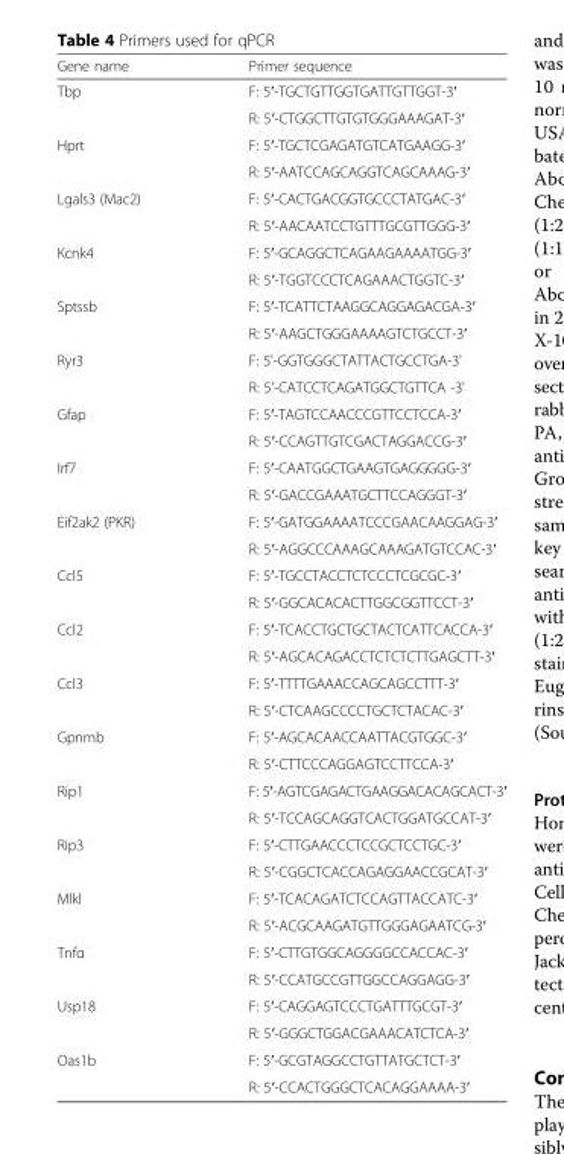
<table><thead><tr><td>Gene name</td><td>Primer sequence</td></tr></thead><tbody><tr><td rowspan="2">Tbp</td><td>F: 5′-TGCTGTTGGTGATTGTTGGT-3′</td></tr><tr><td>R: 5′-CTGGCTTGTGTGGGAAAGAT-3′</td></tr><tr><td rowspan="2">Hprt</td><td>F: 5′-TGCTCGAGATGTCATGAAGG-3′</td></tr><tr><td>R: 5′-AATCCAGCAGGTCAGCAAAG-3′</td></tr><tr><td rowspan="2">Lgals3 (Mac2)</td><td>F: 5′-CACTGACGGTGCCCTATGAC-3′</td></tr><tr><td>R: 5′-AACAATCCTGTTTGCGTTGGG-3′</td></tr><tr><td rowspan="2">Kcnk4</td><td>F: 5′-GCAGGCTCAGAAGAAAATGG-3′</td></tr><tr><td>R: 5′-TGGTCCCTCAGAAACTGGTC-3′</td></tr><tr><td rowspan="2">Sptssb</td><td>F: 5′-TCATTCTAAGGCAGGAGACGA-3′</td></tr><tr><td>R: 5′-AAGCTGGGAAAAGTCTGCCT-3′</td></tr><tr><td rowspan="2">Ryr3</td><td>F: 5&#x27;-GGTGGGCTATTACTGCCTGA-3&#x27;</td></tr><tr><td>R: 5&#x27;-CATCCTCAGATGGCTGTTCA -3&#x27;</td></tr><tr><td rowspan="2">Gfap</td><td>F: 5′-TAGTCCAACCCGTTCCTCCA-3′</td></tr><tr><td>R: 5′-CCAGTTGTCGACTAGGACCG-3′</td></tr><tr><td rowspan="2">Irf7</td><td>F: 5′-CAATGGCTGAAGTGAGGGGG-3′</td></tr><tr><td>R: 5′-GACCGAAATGCTTCCAGGGT-3′</td></tr><tr><td rowspan="2">Eif2ak2 (PKR)</td><td>F: 5′-GATGGAAAATCCCGAACAAGGAG-3′</td></tr><tr><td>R: 5′-AGGCCCAAAGCAAAGATGTCCAC-3′</td></tr><tr><td rowspan="2">Ccl5</td><td>F: 5′-TGCCTACCTCTCCCTCGCGC-3′</td></tr><tr><td>R: 5′-GGCACACACTTGGCGGTTCCT-3′</td></tr><tr><td rowspan="2">Ccl2</td><td>F: 5′-TCACCTGCTGCTACTCATTCACCA-3′</td></tr><tr><td>R: 5′-AGCACAGACCTCTCTCTTGAGCTT-3′</td></tr><tr><td rowspan="2">Ccl3</td><td>F: 5′-TTTTGAAACCAGCAGCCTTT-3′</td></tr><tr><td>R: 5′-CTCAAGCCCCTGCTCTACAC-3′</td></tr><tr><td rowspan="2">Gpnmb</td><td>F: 5′-AGCACAACCAATTACGTGGC-3′</td></tr><tr><td>R: 5′-CTTCCCAGGAGTCCTTCCA-3′</td></tr><tr><td rowspan="2">Rip1</td><td>F: 5′-AGTCGAGACTGAAGGACACAGCACT-3′</td></tr><tr><td>R: 5′-TCCAGCAGGTCACTGGATGCCAT-3′</td></tr><tr><td rowspan="2">Rip3</td><td>F: 5′-CTTGAACCCTCCGCTCCTGC-3′</td></tr><tr><td>R: 5′-CGGCTCACCAGAGGAACCGCAT-3′</td></tr><tr><td rowspan="2">Mlkl</td><td>F: 5′-TCACAGATCTCCAGTTACCATC-3′</td></tr><tr><td>R: 5′-ACGCAAGATGTTGGGAGAATCG-3′</td></tr><tr><td rowspan="2">Tnfα</td><td>F: 5′-CTTGTGGCAGGGGCCACCAC-3′</td></tr><tr><td>R: 5′-CCATGCCGTTGGCCAGGAGG-3′</td></tr><tr><td rowspan="2">Usp18</td><td>F: 5′-CAGGAGTCCCTGATTTGCGT-3′</td></tr><tr><td>R: 5′-GGGCTGGACGAAACATCTCA-3′</td></tr><tr><td rowspan="2">Oas1b</td><td>F: 5′-GCGTAGGCCTGTTATGCTCT-3′</td></tr><tr><td>R: 5′-CCACTGGGCTCACAGGAAAA-3′</td></tr></tbody></table>